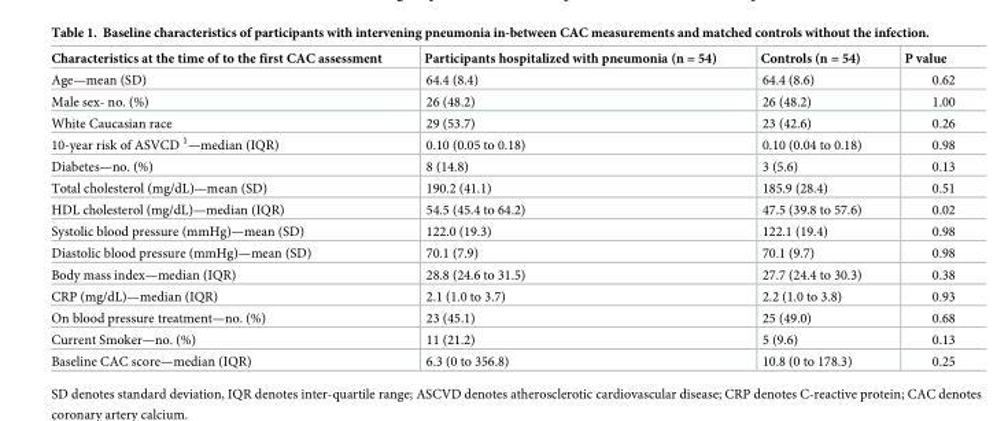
<table><thead><tr><td>Characteristics at the time of to the first CAC assessment</td><td>Participants hospitalized with pneumonia (n = 54)</td><td>Controls (n = 54)</td><td>P value</td></tr></thead><tbody><tr><td>Age—mean (SD)</td><td>64.4 (8.4)</td><td>64.4 (8.6)</td><td>0.62</td></tr><tr><td>Male sex- no. (%)</td><td>26 (48.2)</td><td>26 (48.2)</td><td>1.00</td></tr><tr><td>White Caucasian race</td><td>29 (53.7)</td><td>23 (42.6)</td><td>0.26</td></tr><tr><td>10-year risk of ASVCD <sup>1</sup>—median (IQR)</td><td>0.10 (0.05 to 0.18)</td><td>0.10 (0.04 to 0.18)</td><td>0.98</td></tr><tr><td>Diabetes—no. (%)</td><td>8 (14.8)</td><td>3 (5.6)</td><td>0.13</td></tr><tr><td>Total cholesterol (mg/dL)—mean (SD)</td><td>190.2 (41.1)</td><td>185.9 (28.4)</td><td>0.51</td></tr><tr><td>HDL cholesterol (mg/dL)—median (IQR)</td><td>54.5 (45.4 to 64.2)</td><td>47.5 (39.8 to 57.6)</td><td>0.02</td></tr><tr><td>Systolic blood pressure (mmHg)—mean (SD)</td><td>122.0 (19.3)</td><td>122.1 (19.4)</td><td>0.98</td></tr><tr><td>Diastolic blood pressure (mmHg)—mean (SD)</td><td>70.1 (7.9)</td><td>70.1 (9.7)</td><td>0.98</td></tr><tr><td>Body mass index—median (IQR)</td><td>28.8 (24.6 to 31.5)</td><td>27.7 (24.4 to 30.3)</td><td>0.38</td></tr><tr><td>CRP (mg/dL)—median (IQR)</td><td>2.1 (1.0 to 3.7)</td><td>2.2 (1.0 to 3.8)</td><td>0.93</td></tr><tr><td>On blood pressure treatment—no. (%)</td><td>23 (45.1)</td><td>25 (49.0)</td><td>0.68</td></tr><tr><td>Current Smoker—no. (%)</td><td>11 (21.2)</td><td>5 (9.6)</td><td>0.13</td></tr><tr><td>Baseline CAC score—median (IQR)</td><td>6.3 (0 to 356.8)</td><td>10.8 (0 to 178.3)</td><td>0.25</td></tr></tbody></table>